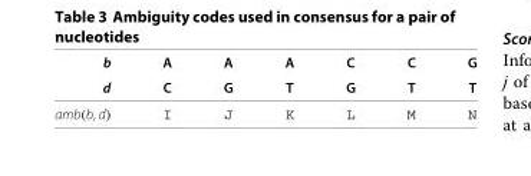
<table><thead><tr><td rowspan="2">b d</td><td rowspan="2">A C</td><td rowspan="2">A G</td><td rowspan="2">A T</td><td rowspan="2">C G</td><td rowspan="2">C T</td><td rowspan="2">G T</td></tr><tr></tr></thead><tbody><tr><td>amb(b, d)</td><td>I</td><td>J</td><td>K</td><td>L</td><td>M</td><td>N</td></tr></tbody></table>